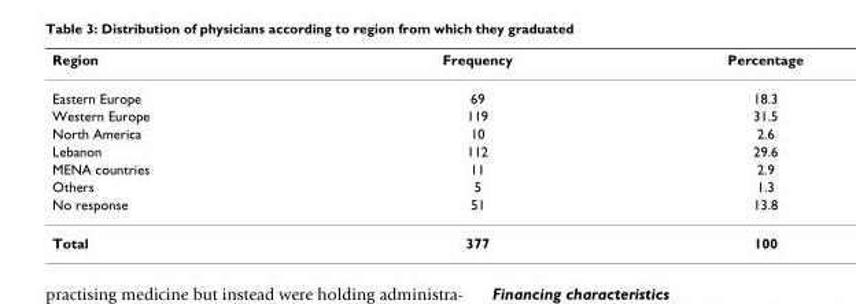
<table><thead><tr><td>Region</td><td>Frequency</td><td>Percentage</td></tr></thead><tbody><tr><td>Eastern Europe</td><td>69</td><td>18.3</td></tr><tr><td>Western Europe</td><td>119</td><td>31.5</td></tr><tr><td>North America</td><td>10</td><td>2.6</td></tr><tr><td>Lebanon</td><td>112</td><td>29.6</td></tr><tr><td>MENA countries</td><td>11</td><td>2.9</td></tr><tr><td>Others</td><td>5</td><td>1.3</td></tr><tr><td>No response</td><td>51</td><td>13.8</td></tr><tr><td>Total</td><td>377</td><td>100</td></tr></tbody></table>